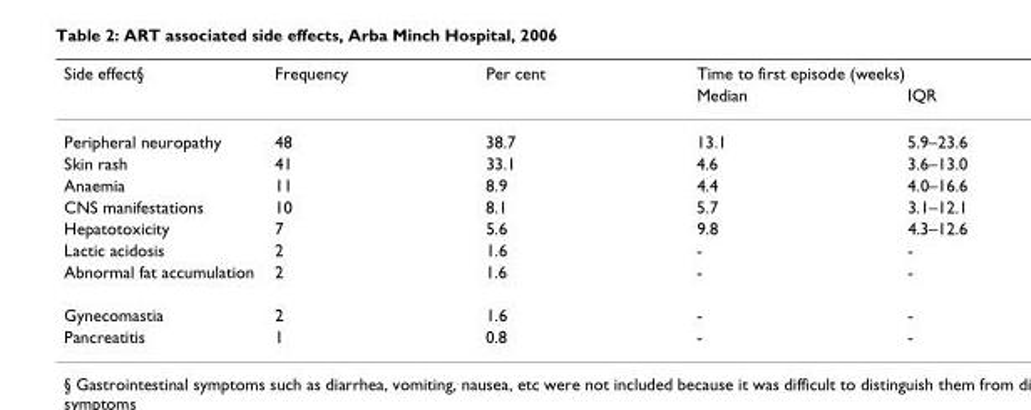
<table><thead><tr><td rowspan="2">Side effect§</td><td rowspan="2">Frequency</td><td rowspan="2">Per cent</td><td colspan="2">Time to first episode (weeks)</td></tr><tr><td>Median</td><td>IQR</td></tr></thead><tbody><tr><td>Peripheral neuropathy</td><td>48</td><td>38.7</td><td>13.1</td><td>5.9–23.6</td></tr><tr><td>Skin rash</td><td>41</td><td>33.1</td><td>4.6</td><td>3.6–13.0</td></tr><tr><td>Anaemia</td><td>11</td><td>8.9</td><td>4.4</td><td>4.0–16.6</td></tr><tr><td>CNS manifestations</td><td>10</td><td>8.1</td><td>5.7</td><td>3.1–12.1</td></tr><tr><td>Hepatotoxicity</td><td>7</td><td>5.6</td><td>9.8</td><td>4.3–12.6</td></tr><tr><td>Lactic acidosis</td><td>2</td><td>1.6</td><td>-</td><td>-</td></tr><tr><td>Abnormal fat accumulation</td><td>2</td><td>1.6</td><td>-</td><td>-</td></tr><tr><td>Gynecomastia</td><td>2</td><td>1.6</td><td>-</td><td>-</td></tr><tr><td>Pancreatitis</td><td>1</td><td>0.8</td><td>-</td><td>-</td></tr></tbody></table>